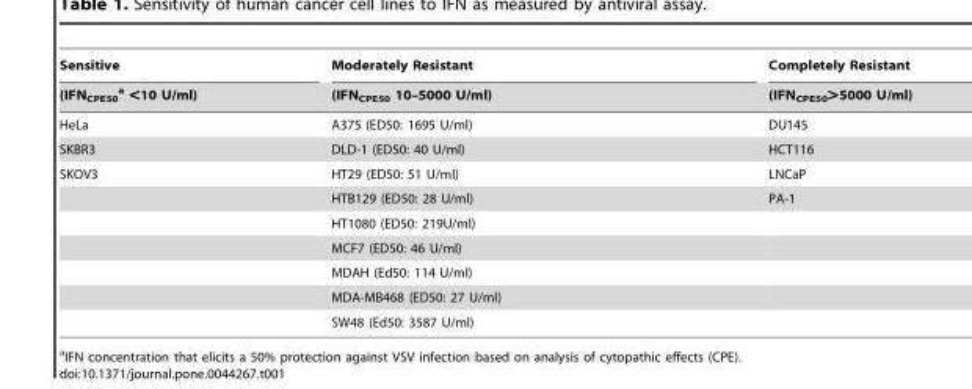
<table><thead><tr><td rowspan="2">Sensitive (IFN<sub>CPE50</sub> a &lt;10 U/ml)</td><td rowspan="2">Moderately Resistant (IFN<sub>CPE50</sub> 10–5000 U/ml)</td><td rowspan="2">Completely Resistant (IFN<sub>CPE50</sub>&gt;5000 U/ml)</td></tr><tr></tr></thead><tbody><tr><td>HeLa</td><td>A375 (ED50: 1695 U/ml)</td><td>DU145</td></tr><tr><td>SKBR3</td><td>DLD-1 (ED50: 40 U/ml)</td><td>HCT116</td></tr><tr><td rowspan="7">SKOV3</td><td>HT29 (ED50: 51 U/ml)</td><td>LNCaP</td></tr><tr><td>HTB129 (ED50: 28 U/ml)</td><td>PA-1</td></tr><tr><td>HT1080 (ED50: 219U/ml)</td><td></td></tr><tr><td>MCF7 (ED50: 46 U/ml)</td><td></td></tr><tr><td>MDAH (Ed50: 114 U/ml)</td><td></td></tr><tr><td>MDA-MB468 (ED50: 27 U/ml)</td><td></td></tr><tr><td>SW48 (Ed50: 3587 U/ml)</td><td></td></tr></tbody></table>